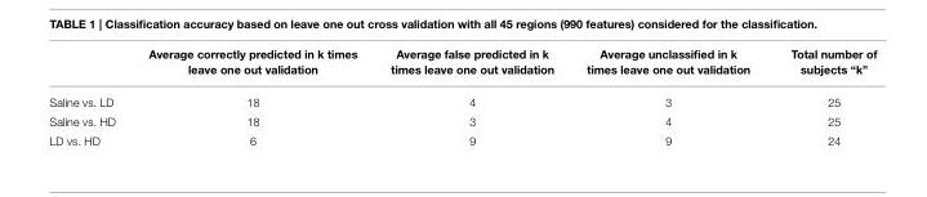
<table><thead><tr><td></td><td>Average correctly predicted in k times leave one out validation</td><td>Average false predicted in k times leave one out validation</td><td>Average unclassified in k times leave one out validation</td><td>Total number of subjects “k”</td></tr></thead><tbody><tr><td>Saline vs. LD</td><td>18</td><td>4</td><td>3</td><td>25</td></tr><tr><td>Saline vs. HD</td><td>18</td><td>3</td><td>4</td><td>25</td></tr><tr><td>LD vs. HD</td><td>6</td><td>9</td><td>9</td><td>24</td></tr></tbody></table>